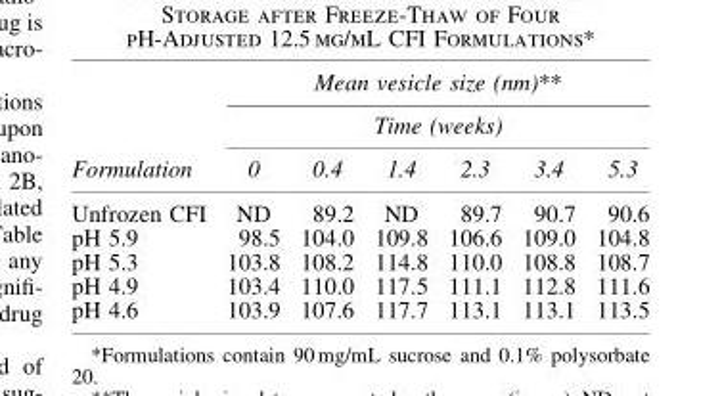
<table><thead><tr><td rowspan="3">Formulation</td><td rowspan="2" colspan="6">Mean vesicle size (nm)** Time (weeks)</td></tr><tr></tr><tr><td>0</td><td>0.4</td><td>1.4</td><td>2.3</td><td>3.4</td><td>5.3</td></tr></thead><tbody><tr><td>Unfrozen CFI</td><td>ND</td><td>89.2</td><td>ND</td><td>89.7</td><td>90.7</td><td>90.6</td></tr><tr><td>pH 5.9</td><td>98.5</td><td>104.0</td><td>109.8</td><td>106.6</td><td>109.0</td><td>104.8</td></tr><tr><td>pH 5.3</td><td>103.8</td><td>108.2</td><td>114.8</td><td>110.0</td><td>108.8</td><td>108.7</td></tr><tr><td>pH 4.9</td><td>103.4</td><td>110.0</td><td>117.5</td><td>111.1</td><td>112.8</td><td>111.6</td></tr><tr><td>pH 4.6</td><td>103.9</td><td>107.6</td><td>117.7</td><td>113.1</td><td>113.1</td><td>113.5</td></tr></tbody></table>